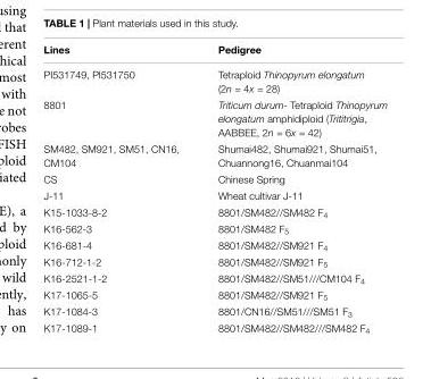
<table><thead><tr><td>Lines</td><td>Pedigree</td></tr></thead><tbody><tr><td>PI531749, PI531750</td><td>Tetraploid Thinopyrum elongatum (2n = 4x = 28)</td></tr><tr><td>8801</td><td>Triticum durum- Tetraploid Thinopyrum elongatum amphidiploid (Trititrigia, AABBEE, 2n = 6x = 42)</td></tr><tr><td>SM482, SM921, SM51, CN16, CM104</td><td>Shumai482, Shumai921, Shumai51, Chuannong16, Chuanmai104</td></tr><tr><td>CS</td><td>Chinese Spring</td></tr><tr><td>J-11</td><td>Wheat cultivar J-11</td></tr><tr><td>K15-1033-8-2</td><td>8801/SM482//SM482 F<sub>4</sub></td></tr><tr><td>K16-562-3</td><td>8801/SM482 F<sub>5</sub></td></tr><tr><td>K16-681-4</td><td>8801/SM482//SM921 F<sub>4</sub></td></tr><tr><td>K16-712-1-2</td><td>8801/SM482//SM921 F<sub>5</sub></td></tr><tr><td>K16-2521-1-2</td><td>8801/SM482//SM51///CM104 F<sub>4</sub></td></tr><tr><td>K17-1065-5</td><td>8801/SM482//SM921 F<sub>5</sub></td></tr><tr><td>K17-1084-3</td><td>8801/CN16//SM51///SM51 F<sub>3</sub></td></tr><tr><td>K17-1089-1</td><td>8801/SM482//SM482///SM482 F<sub>4</sub></td></tr></tbody></table>